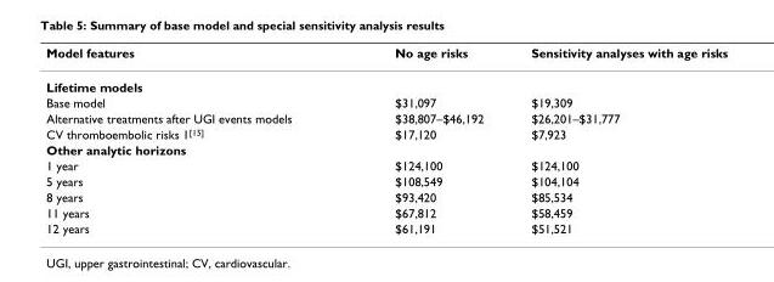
<table><thead><tr><td>Model features</td><td>No age risks</td><td>Sensitivity analyses with age risks</td></tr></thead><tbody><tr><td colspan="3">Lifetime models</td></tr><tr><td>Base model</td><td>$31,097</td><td>$19,309</td></tr><tr><td>Alternative treatments after UGI events models</td><td>$38,807–$46,192</td><td>$26,201–$31,777</td></tr><tr><td>CV thromboembolic risks 1<sup>[15]</sup></td><td>$17,120</td><td>$7,923</td></tr><tr><td colspan="3">Other analytic horizons</td></tr><tr><td>1 year</td><td>$124,100</td><td>$124,100</td></tr><tr><td>5 years</td><td>$108,549</td><td>$104,104</td></tr><tr><td>8 years</td><td>$93,420</td><td>$85,534</td></tr><tr><td>11 years</td><td>$67,812</td><td>$58,459</td></tr><tr><td>12 years</td><td>$61,191</td><td>$51,521</td></tr></tbody></table>